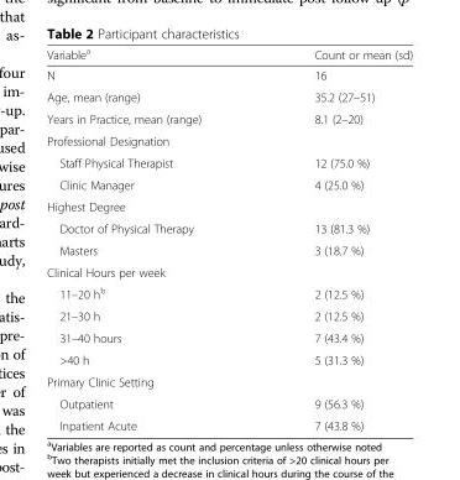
<table><thead><tr><td>Variable<sup>a</sup></td><td>Count or mean (sd)</td></tr></thead><tbody><tr><td>N</td><td>16</td></tr><tr><td>Age, mean (range)</td><td>35.2 (27–51)</td></tr><tr><td>Years in Practice, mean (range)</td><td>8.1 (2–20)</td></tr><tr><td colspan="2">Professional Designation</td></tr><tr><td>Staff Physical Therapist</td><td>12 (75.0 %)</td></tr><tr><td>Clinic Manager</td><td>4 (25.0 %)</td></tr><tr><td colspan="2">Highest Degree</td></tr><tr><td>Doctor of Physical Therapy</td><td>13 (81.3 %)</td></tr><tr><td>Masters</td><td>3 (18.7 %)</td></tr><tr><td colspan="2">Clinical Hours per week</td></tr><tr><td>11–20 h<sup>b</sup></td><td>2 (12.5 %)</td></tr><tr><td>21–30 h</td><td>2 (12.5 %)</td></tr><tr><td>31–40 hours</td><td>7 (43.4 %)</td></tr><tr><td>&gt;40 h</td><td>5 (31.3 %)</td></tr><tr><td colspan="2">Primary Clinic Setting</td></tr><tr><td>Outpatient</td><td>9 (56.3 %)</td></tr><tr><td>Inpatient Acute</td><td>7 (43.8 %)</td></tr></tbody></table>